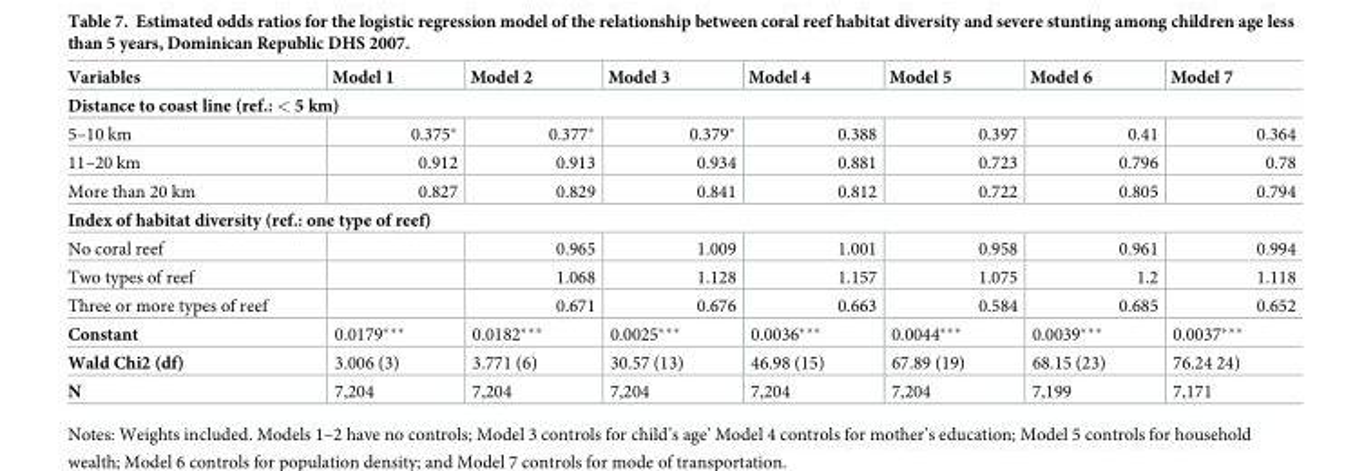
<table><thead><tr><td>Variables</td><td>Model 1</td><td>Model 2</td><td>Model 3</td><td>Model 4</td><td>Model 5</td><td>Model 6</td><td>Model 7</td></tr></thead><tbody><tr><td colspan="8">Distance to coast line (ref.: &lt; 5 km)</td></tr><tr><td>5–10 km</td><td>0.375*</td><td>0.377*</td><td>0.379*</td><td>0.388</td><td>0.397</td><td>0.41</td><td>0.364</td></tr><tr><td>11–20 km</td><td>0.912</td><td>0.913</td><td>0.934</td><td>0.881</td><td>0.723</td><td>0.796</td><td>0.78</td></tr><tr><td>More than 20 km</td><td>0.827</td><td>0.829</td><td>0.841</td><td>0.812</td><td>0.722</td><td>0.805</td><td>0.794</td></tr><tr><td colspan="8">Index of habitat diversity (ref.: one type of reef)</td></tr><tr><td>No coral reef</td><td></td><td>0.965</td><td>1.009</td><td>1.001</td><td>0.958</td><td>0.961</td><td>0.994</td></tr><tr><td>Two types of reef</td><td></td><td>1.068</td><td>1.128</td><td>1.157</td><td>1.075</td><td>1.2</td><td>1.118</td></tr><tr><td>Three or more types of reef</td><td></td><td>0.671</td><td>0.676</td><td>0.663</td><td>0.584</td><td>0.685</td><td>0.652</td></tr><tr><td>Constant</td><td>0.0179***</td><td>0.0182***</td><td>0.0025***</td><td>0.0036***</td><td>0.0044***</td><td>0.0039***</td><td>0.0037***</td></tr><tr><td>Wald Chi2 (df)</td><td>3.006 (3)</td><td>3.771 (6)</td><td>30.57 (13)</td><td>46.98 (15)</td><td>67.89 (19)</td><td>68.15 (23)</td><td>76.24 24)</td></tr><tr><td>N</td><td>7,204</td><td>7,204</td><td>7,204</td><td>7,204</td><td>7,204</td><td>7,199</td><td>7,171</td></tr></tbody></table>